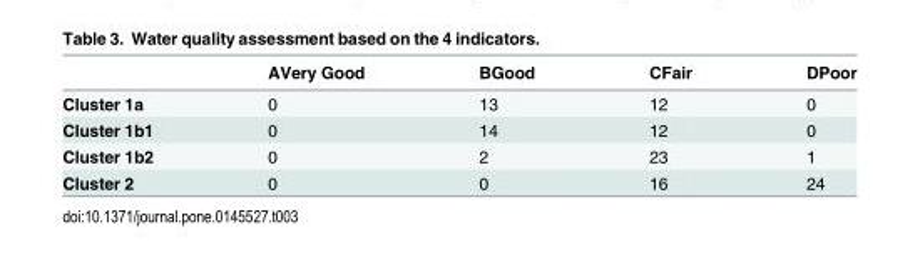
<table><thead><tr><td></td><td>AVery Good</td><td>BGood</td><td>CFair</td><td>DPoor</td></tr></thead><tbody><tr><td>Cluster 1a</td><td>0</td><td>13</td><td>12</td><td>0</td></tr><tr><td>Cluster 1b1</td><td>0</td><td>14</td><td>12</td><td>0</td></tr><tr><td>Cluster 1b2</td><td>0</td><td>2</td><td>23</td><td>1</td></tr><tr><td>Cluster 2</td><td>0</td><td>0</td><td>16</td><td>24</td></tr></tbody></table>